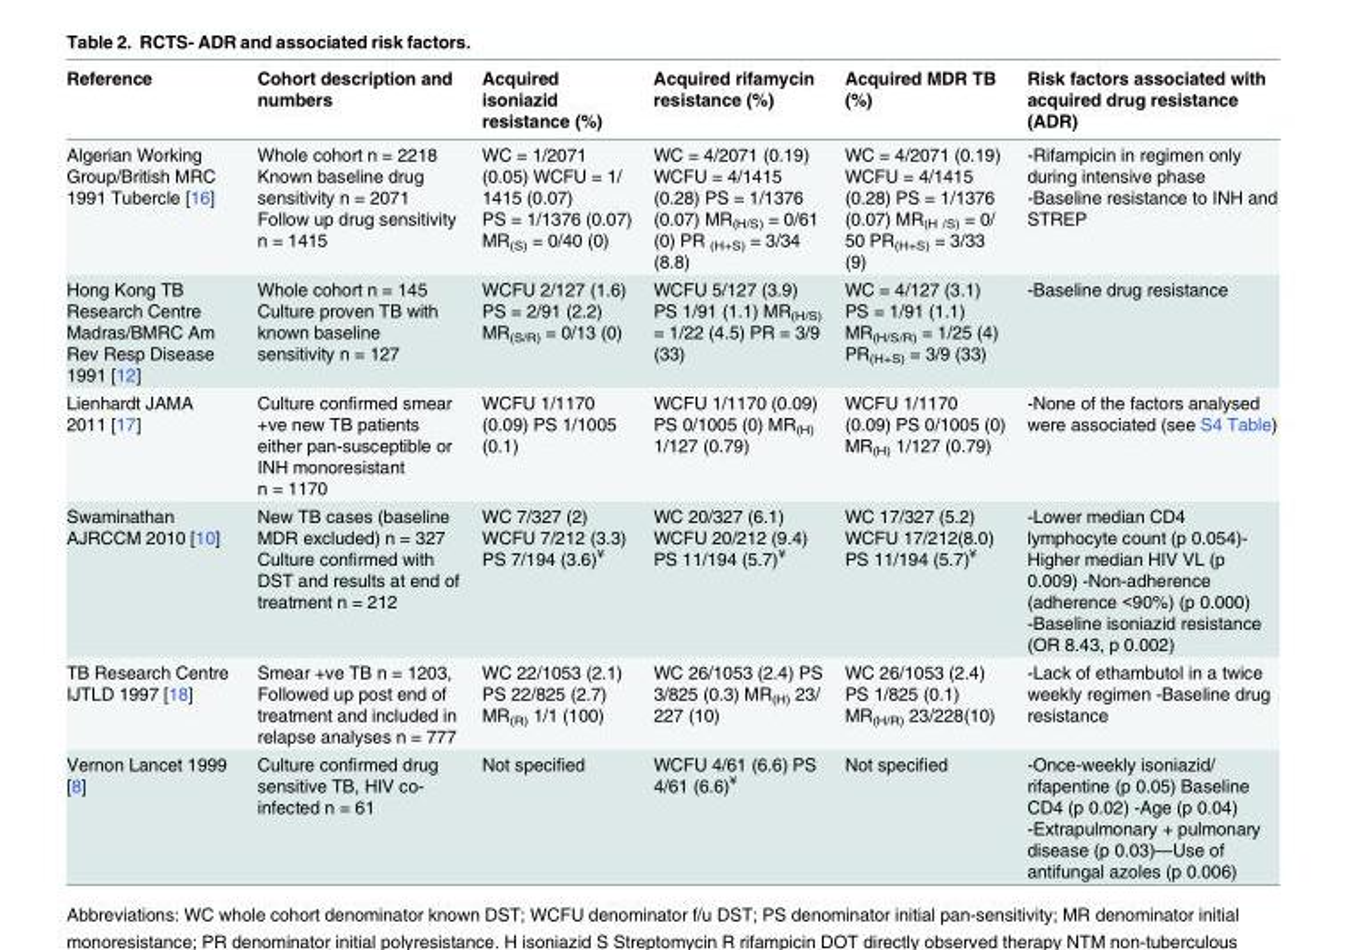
<table><thead><tr><td>Reference</td><td>Cohort description and numbers</td><td>Acquired isoniazid resistance (%)</td><td>Acquired rifamycin resistance (%)</td><td>Acquired MDR TB (%)</td><td>Risk factors associated with acquired drug resistance (ADR)</td></tr></thead><tbody><tr><td>Algerian Working Group/British MRC 1991 Tubercle [16]</td><td>Whole cohort n = 2218 Known baseline drug sensitivity n = 2071 Follow up drug sensitivity n = 1415</td><td>WC = 1/2071 (0.05) WCFU = 1/ 1415 (0.07) PS = 1/1376 (0.07) MR<sub>(S)</sub> = 0/40 (0)</td><td>WC = 4/2071 (0.19) WCFU = 4/1415 (0.28) PS = 1/1376 (0.07) MR<sub>(H/S)</sub> = 0/61 (0) PR <sub>(H+S)</sub> = 3/34 (8.8)</td><td>WC = 4/2071 (0.19) WCFU = 4/1415 (0.28) PS = 1/1376 (0.07) MR<sub>(H /S)</sub> = 0/ 50 PR<sub>(H+S)</sub> = 3/33 (9)</td><td>-Rifampicin in regimen only during intensive phase -Baseline resistance to INH and STREP</td></tr><tr><td>Hong Kong TB Research Centre Madras/BMRC Am Rev Resp Disease 1991 [12]</td><td>Whole cohort n = 145 Culture proven TB with known baseline sensitivity n = 127</td><td>WCFU 2/127 (1.6) PS = 2/91 (2.2) MR<sub>(S/R)</sub> = 0/13 (0)</td><td>WCFU 5/127 (3.9) PS 1/91 (1.1) MR<sub>(H/S)</sub> = 1/22 (4.5) PR = 3/9 (33)</td><td>WC = 4/127 (3.1) PS = 1/91 (1.1) MR<sub>(H/S/R)</sub> = 1/25 (4) PR<sub>(H+S)</sub> = 3/9 (33)</td><td>-Baseline drug resistance</td></tr><tr><td>Lienhardt JAMA 2011 [17]</td><td>Culture confirmed smear +ve new TB patients either pan-susceptible or INH monoresistant n = 1170</td><td>WCFU 1/1170 (0.09) PS 1/1005 (0.1)</td><td>WCFU 1/1170 (0.09) PS 0/1005 (0) MR<sub>(H)</sub> 1/127 (0.79)</td><td>WCFU 1/1170 (0.09) PS 0/1005 (0) MR<sub>(H)</sub> 1/127 (0.79)</td><td>-None of the factors analysed were associated (see S4 Table)</td></tr><tr><td>Swaminathan AJRCCM 2010 [10]</td><td>New TB cases (baseline MDR excluded) n = 327 Culture confirmed with DST and results at end of treatment n = 212</td><td>WC 7/327 (2) WCFU 7/212 (3.3) PS 7/194 (3.6)<sup>¥</sup></td><td>WC 20/327 (6.1) WCFU 20/212 (9.4) PS 11/194 (5.7)<sup>¥</sup></td><td>WC 17/327 (5.2) WCFU 17/212(8.0) PS 11/194 (5.7)<sup>¥</sup></td><td>-Lower median CD4 lymphocyte count (p 0.054)- Higher median HIV VL (p 0.009) -Non-adherence (adherence &lt;90%) (p 0.000) -Baseline isoniazid resistance (OR 8.43, p 0.002)</td></tr><tr><td>TB Research Centre IJTLD 1997 [18]</td><td>Smear +ve TB n = 1203, Followed up post end of treatment and included in relapse analyses n = 777</td><td>WC 22/1053 (2.1) PS 22/825 (2.7) MR<sub>(R)</sub> 1/1 (100)</td><td>WC 26/1053 (2.4) PS 3/825 (0.3) MR<sub>(H)</sub> 23/ 227 (10)</td><td>WC 26/1053 (2.4) PS 1/825 (0.1) MR<sub>(H/R)</sub> 23/228(10)</td><td>-Lack of ethambutol in a twice weekly regimen -Baseline drug resistance</td></tr><tr><td>Vernon Lancet 1999 [8]</td><td>Culture confirmed drug sensitive TB, HIV co- infected n = 61</td><td>Not specified</td><td>WCFU 4/61 (6.6) PS 4/61 (6.6)<sup>¥</sup></td><td>Not specified</td><td>-Once-weekly isoniazid/ rifapentine (p 0.05) Baseline CD4 (p 0.02) -Age (p 0.04) -Extrapulmonary + pulmonary disease (p 0.03)—Use of antifungal azoles (p 0.006)</td></tr></tbody></table>